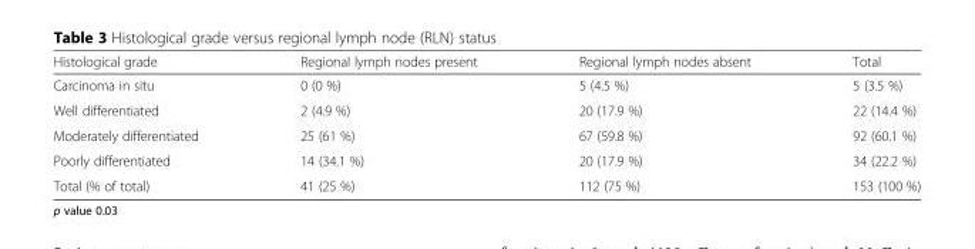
<table><thead><tr><td>Histological grade</td><td>Regional lymph nodes present</td><td>Regional lymph nodes absent</td><td>Total</td></tr></thead><tbody><tr><td>Carcinoma in situ</td><td>0 (0 %)</td><td>5 (4.5 %)</td><td>5 (3.5 %)</td></tr><tr><td>Well differentiated</td><td>2 (4.9 %)</td><td>20 (17.9 %)</td><td>22 (14.4 %)</td></tr><tr><td>Moderately differentiated</td><td>25 (61 %)</td><td>67 (59.8 %)</td><td>92 (60.1 %)</td></tr><tr><td>Poorly differentiated</td><td>14 (34.1 %)</td><td>20 (17.9 %)</td><td>34 (22.2 %)</td></tr><tr><td>Total (% of total)</td><td>41 (25 %)</td><td>112 (75 %)</td><td>153 (100 %)</td></tr></tbody></table>